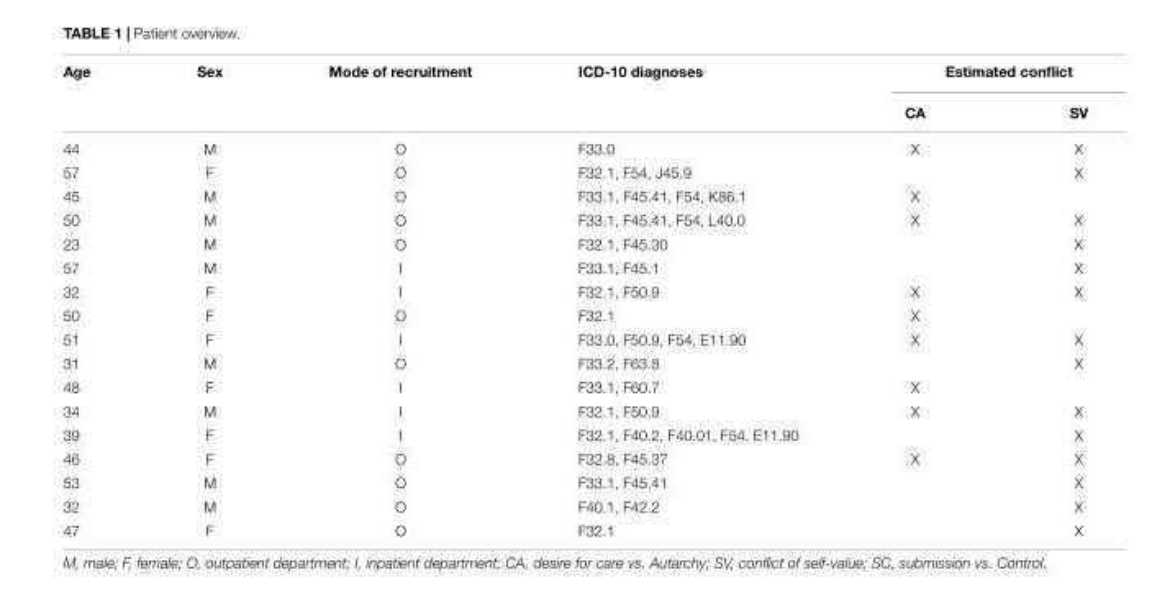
<table><thead><tr><td rowspan="2">Age</td><td rowspan="2">Sex</td><td rowspan="2">Mode of recruitment</td><td rowspan="2">ICD-10 diagnoses</td><td colspan="2">Estimated conflict</td></tr><tr><td>CA</td><td>SV</td></tr></thead><tbody><tr><td>44</td><td>M</td><td>O</td><td>F33.0</td><td>X</td><td>X</td></tr><tr><td>57</td><td>F</td><td>O</td><td>F32.1, F54, J45.9</td><td></td><td>X</td></tr><tr><td>45</td><td>M</td><td>O</td><td>F33.1, F45.41, F54, K86.1</td><td>X</td><td></td></tr><tr><td>50</td><td>M</td><td>O</td><td>F33.1, F45.41, F54, L40.0</td><td>X</td><td>X</td></tr><tr><td>23</td><td>M</td><td>O</td><td>F32.1, F45.30</td><td></td><td>X</td></tr><tr><td>57</td><td>M</td><td>I</td><td>F33.1, F45.1</td><td></td><td>X</td></tr><tr><td>32</td><td>F</td><td>I</td><td>F32.1, F50.9</td><td>X</td><td>X</td></tr><tr><td>50</td><td>F</td><td>O</td><td>F32.1</td><td>X</td><td></td></tr><tr><td>51</td><td>F</td><td>I</td><td>F33.0, F50.9, F54, E11.90</td><td>X</td><td>X</td></tr><tr><td>31</td><td>M</td><td>O</td><td>F33.2, F63.8</td><td></td><td>X</td></tr><tr><td>48</td><td>F</td><td>I</td><td>F33.1, F60.7</td><td>X</td><td></td></tr><tr><td>34</td><td>M</td><td>I</td><td>F32.1, F50.9</td><td>X</td><td>X</td></tr><tr><td>39</td><td>F</td><td>I</td><td>F32.1, F40.2, F40.01, F54, E11.90</td><td></td><td>X</td></tr><tr><td>46</td><td>F</td><td>O</td><td>F32.8, F45.37</td><td>X</td><td>X</td></tr><tr><td>53</td><td>M</td><td>O</td><td>F33.1, F45.41</td><td></td><td>X</td></tr><tr><td>32</td><td>M</td><td>O</td><td>F40.1, F42.2</td><td></td><td>X</td></tr><tr><td>47</td><td>F</td><td>O</td><td>F32.1</td><td></td><td>X</td></tr></tbody></table>